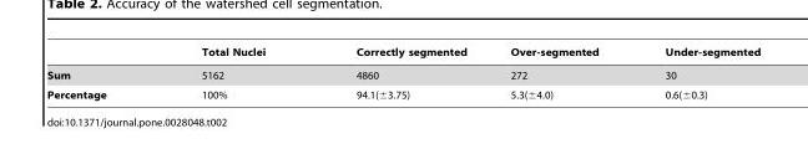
<table><thead><tr><td></td><td>Total Nuclei</td><td>Correctly segmented</td><td>Over-segmented</td><td>Under-segmented</td></tr></thead><tbody><tr><td>Sum</td><td>5162</td><td>4860</td><td>272</td><td>30</td></tr><tr><td>Percentage</td><td>100%</td><td>94.1(±3.75)</td><td>5.3(±4.0)</td><td>0.6(±0.3)</td></tr></tbody></table>